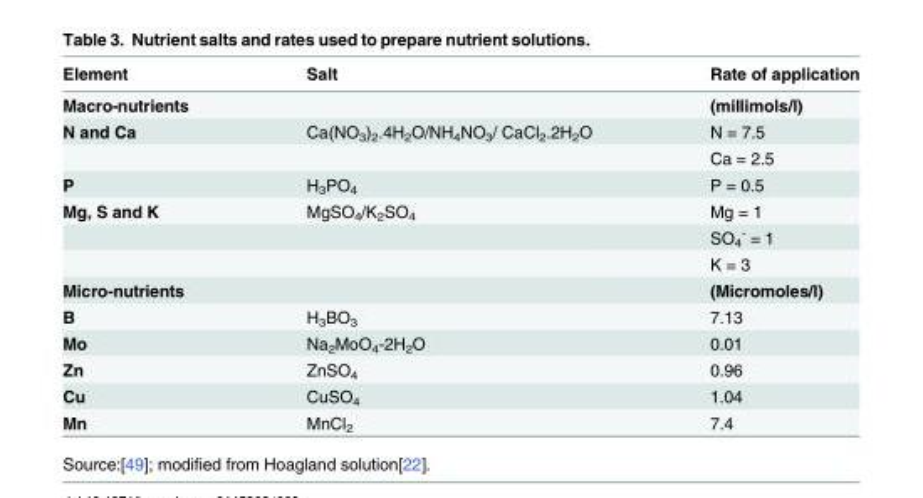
<table><thead><tr><td>Element</td><td>Salt</td><td>Rate of application</td></tr></thead><tbody><tr><td>Macro-nutrients</td><td></td><td>(millimols/l)</td></tr><tr><td rowspan="2">N and Ca</td><td>Ca(NO<sub>3</sub>)<sub>2</sub>.4H<sub>2</sub>O/NH<sub>4</sub>NO<sub>3</sub>/ CaCl<sub>2</sub>.2H<sub>2</sub>O</td><td>N = 7.5</td></tr><tr><td></td><td>Ca = 2.5</td></tr><tr><td>P</td><td>H<sub>3</sub>PO<sub>4</sub></td><td>P = 0.5</td></tr><tr><td rowspan="3">Mg, S and K</td><td>MgSO<sub>4</sub>/K<sub>2</sub>SO<sub>4</sub></td><td>Mg = 1</td></tr><tr><td></td><td>SO<sub>4</sub> <sup>-</sup> = 1</td></tr><tr><td></td><td>K = 3</td></tr><tr><td>Micro-nutrients</td><td></td><td>(Micromoles/l)</td></tr><tr><td>B</td><td>H<sub>3</sub>BO<sub>3</sub></td><td>7.13</td></tr><tr><td>Mo</td><td>Na<sub>2</sub>MoO<sub>4</sub>-2H<sub>2</sub>O</td><td>0.01</td></tr><tr><td>Zn</td><td>ZnSO<sub>4</sub></td><td>0.96</td></tr><tr><td>Cu</td><td>CuSO<sub>4</sub></td><td>1.04</td></tr><tr><td>Mn</td><td>MnCl<sub>2</sub></td><td>7.4</td></tr></tbody></table>